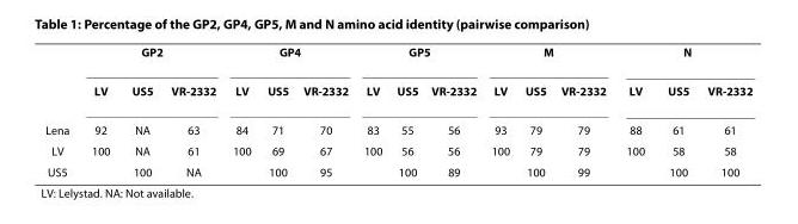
<table><thead><tr><td rowspan="2"></td><td colspan="3">GP2</td><td colspan="3">GP4</td><td colspan="3">GP5</td><td colspan="3">M</td><td colspan="3">N</td></tr><tr><td>LV</td><td>US5</td><td>VR-2332</td><td>LV</td><td>US5</td><td>VR-2332</td><td>LV</td><td>US5</td><td>VR-2332</td><td>LV</td><td>US5</td><td>VR-2332</td><td>LV</td><td>US5</td><td>VR-2332</td></tr></thead><tbody><tr><td>Lena</td><td>92</td><td>NA</td><td>63</td><td>84</td><td>71</td><td>70</td><td>83</td><td>55</td><td>56</td><td>93</td><td>79</td><td>79</td><td>88</td><td>61</td><td>61</td></tr><tr><td>LV</td><td>100</td><td>NA</td><td>61</td><td>100</td><td>69</td><td>67</td><td>100</td><td>56</td><td>56</td><td>100</td><td>79</td><td>79</td><td>100</td><td>58</td><td>58</td></tr><tr><td>US5</td><td></td><td>100</td><td>NA</td><td></td><td>100</td><td>95</td><td></td><td>100</td><td>89</td><td></td><td>100</td><td>99</td><td></td><td>100</td><td>100</td></tr></tbody></table>